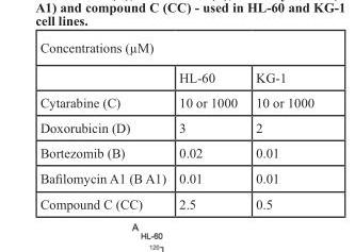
<table><thead><tr><td colspan="3">Concentrations (µM)</td></tr><tr><td></td><td>HL-60</td><td>KG-1</td></tr></thead><tbody><tr><td>Cytarabine (C)</td><td>10 or 1000</td><td>10 or 1000</td></tr><tr><td>Doxorubicin (D)</td><td>3</td><td>2</td></tr><tr><td>Bortezomib (B)</td><td>0.02</td><td>0.01</td></tr><tr><td>Bafilomycin A1 (B A1)</td><td>0.01</td><td>0.01</td></tr><tr><td>Compound C (CC)</td><td>2.5</td><td>0.5</td></tr></tbody></table>